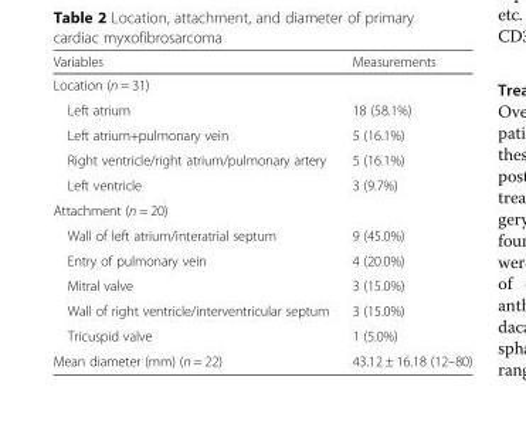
<table><thead><tr><td>Variables</td><td>Measurements</td></tr></thead><tbody><tr><td colspan="2">Location (n = 31)</td></tr><tr><td>Left atrium</td><td>18 (58.1%)</td></tr><tr><td>Left atrium+pulmonary vein</td><td>5 (16.1%)</td></tr><tr><td>Right ventricle/right atrium/pulmonary artery</td><td>5 (16.1%)</td></tr><tr><td>Left ventricle</td><td>3 (9.7%)</td></tr><tr><td colspan="2">Attachment (n = 20)</td></tr><tr><td>Wall of left atrium/interatrial septum</td><td>9 (45.0%)</td></tr><tr><td>Entry of pulmonary vein</td><td>4 (20.0%)</td></tr><tr><td>Mitral valve</td><td>3 (15.0%)</td></tr><tr><td>Wall of right ventricle/interventricular septum</td><td>3 (15.0%)</td></tr><tr><td>Tricuspid valve</td><td>1 (5.0%)</td></tr><tr><td>Mean diameter (mm) (n = 22)</td><td>43.12 ± 16.18 (12–80)</td></tr></tbody></table>